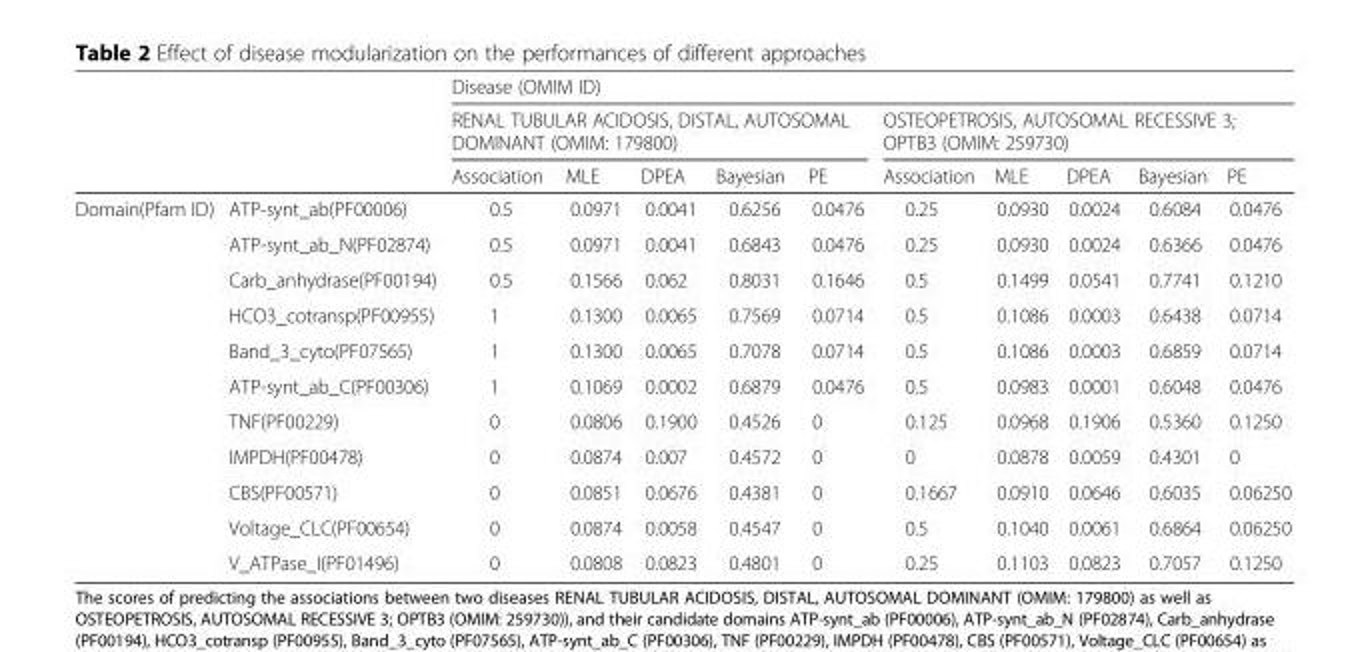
<table><thead><tr><td rowspan="3"></td><td rowspan="3"></td><td colspan="10">Disease (OMIM ID)</td></tr><tr><td colspan="5">RENAL TUBULAR ACIDOSIS, DISTAL, AUTOSOMAL DOMINANT (OMIM: 179800)</td><td colspan="5">OSTEOPETROSIS, AUTOSOMAL RECESSIVE 3; OPTB3 (OMIM: 259730)</td></tr><tr><td>Association</td><td>MLE</td><td>DPEA</td><td>Bayesian</td><td>PE</td><td>Association</td><td>MLE</td><td>DPEA</td><td>Bayesian</td><td>PE</td></tr></thead><tbody><tr><td rowspan="11">Domain(Pfam ID)</td><td>ATP-synt_ab(PF00006)</td><td>0.5</td><td>0.0971</td><td>0.0041</td><td>0.6256</td><td>0.0476</td><td>0.25</td><td>0.0930</td><td>0.0024</td><td>0.6084</td><td>0.0476</td></tr><tr><td>ATP-synt_ab_N(PF02874)</td><td>0.5</td><td>0.0971</td><td>0.0041</td><td>0.6843</td><td>0.0476</td><td>0.25</td><td>0.0930</td><td>0.0024</td><td>0.6366</td><td>0.0476</td></tr><tr><td>Carb_anhydrase(PF00194)</td><td>0.5</td><td>0.1566</td><td>0.062</td><td>0.8031</td><td>0.1646</td><td>0.5</td><td>0.1499</td><td>0.0541</td><td>0.7741</td><td>0.1210</td></tr><tr><td>HCO3_cotransp(PF00955)</td><td>1</td><td>0.1300</td><td>0.0065</td><td>0.7569</td><td>0.0714</td><td>0.5</td><td>0.1086</td><td>0.0003</td><td>0.6438</td><td>0.0714</td></tr><tr><td>Band_3_cyto(PF07565)</td><td>1</td><td>0.1300</td><td>0.0065</td><td>0.7078</td><td>0.0714</td><td>0.5</td><td>0.1086</td><td>0.0003</td><td>0.6859</td><td>0.0714</td></tr><tr><td>ATP-synt_ab_C(PF00306)</td><td>1</td><td>0.1069</td><td>0.0002</td><td>0.6879</td><td>0.0476</td><td>0.5</td><td>0.0983</td><td>0.0001</td><td>0.6048</td><td>0.0476</td></tr><tr><td>TNF(PF00229)</td><td>0</td><td>0.0806</td><td>0.1900</td><td>0.4526</td><td>0</td><td>0.125</td><td>0.0968</td><td>0.1906</td><td>0.5360</td><td>0.1250</td></tr><tr><td>IMPDH(PF00478)</td><td>0</td><td>0.0874</td><td>0.007</td><td>0.4572</td><td>0</td><td>0</td><td>0.0878</td><td>0.0059</td><td>0.4301</td><td>0</td></tr><tr><td>CBS(PF00571)</td><td>0</td><td>0.0851</td><td>0.0676</td><td>0.4381</td><td>0</td><td>0.1667</td><td>0.0910</td><td>0.0646</td><td>0.6035</td><td>0.06250</td></tr><tr><td>Voltage_CLC(PF00654)</td><td>0</td><td>0.0874</td><td>0.0058</td><td>0.4547</td><td>0</td><td>0.5</td><td>0.1040</td><td>0.0061</td><td>0.6864</td><td>0.06250</td></tr><tr><td>V_ATPase_I(PF01496)</td><td>0</td><td>0.0808</td><td>0.0823</td><td>0.4801</td><td>0</td><td>0.25</td><td>0.1103</td><td>0.0823</td><td>0.7057</td><td>0.1250</td></tr></tbody></table>